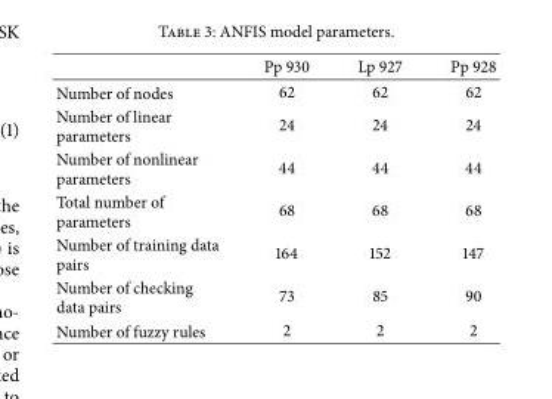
<table><thead><tr><td></td><td>Pp 930</td><td>Lp 927</td><td>Pp 928</td></tr></thead><tbody><tr><td>Number of nodes</td><td>62</td><td>62</td><td>62</td></tr><tr><td>Number of linear parameters</td><td>24</td><td>24</td><td>24</td></tr><tr><td>Number of nonlinear parameters</td><td>44</td><td>44</td><td>44</td></tr><tr><td>Total number of parameters</td><td>68</td><td>68</td><td>68</td></tr><tr><td>Number of training data pairs</td><td>164</td><td>152</td><td>147</td></tr><tr><td>Number of checking data pairs</td><td>73</td><td>85</td><td>90</td></tr><tr><td>Number of fuzzy rules</td><td>2</td><td>2</td><td>2</td></tr></tbody></table>